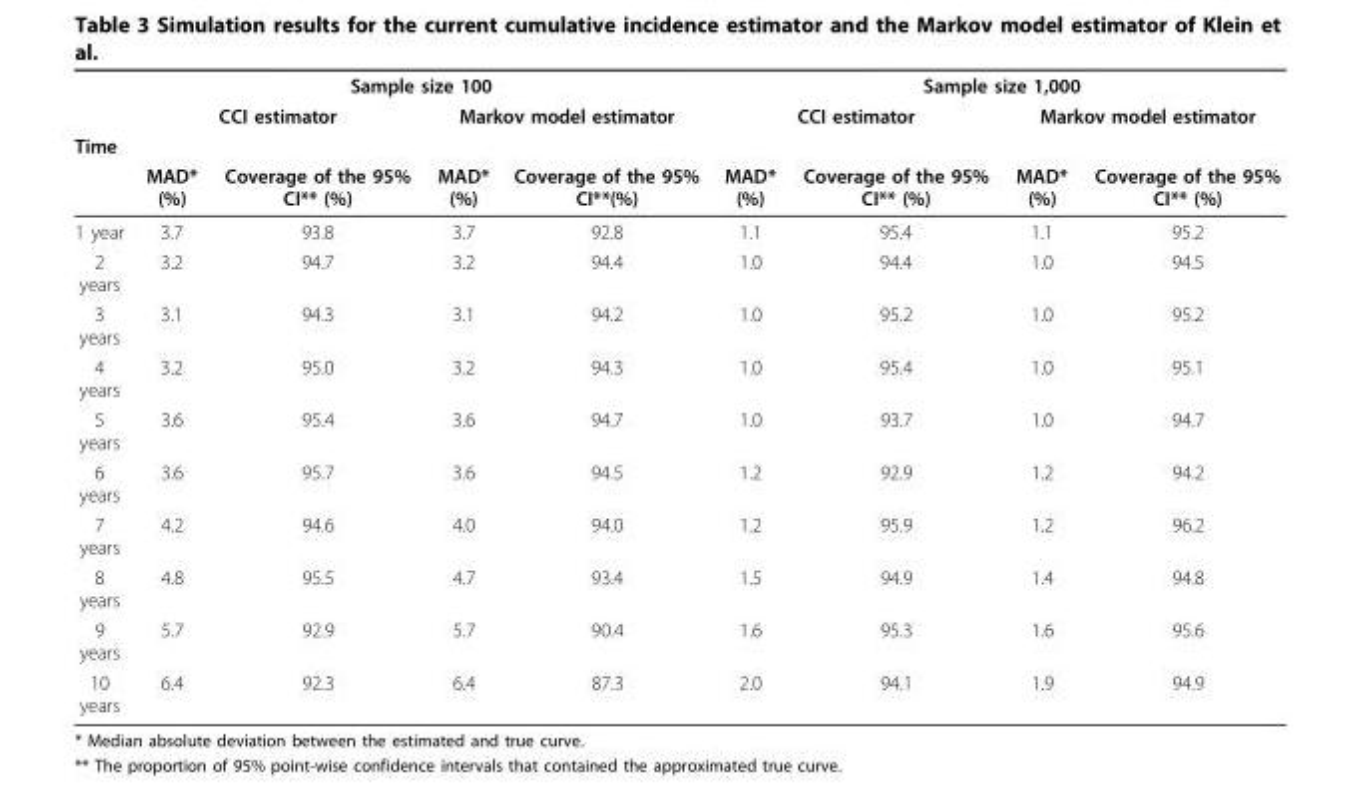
<table><thead><tr><td rowspan="4">Time</td><td colspan="4">Sample size 100</td><td colspan="4">Sample size 1,000</td></tr><tr><td colspan="2">CCI estimator</td><td colspan="2">Markov model estimator</td><td colspan="2">CCI estimator</td><td colspan="2">Markov model estimator</td></tr><tr><td rowspan="2">MAD* (%)</td><td rowspan="2">Coverage of the 95% CI** (%)</td><td rowspan="2">MAD* (%)</td><td rowspan="2">Coverage of the 95% CI**(%)</td><td rowspan="2">MAD* (%)</td><td rowspan="2">Coverage of the 95% CI** (%)</td><td rowspan="2">MAD* (%)</td><td rowspan="2">Coverage of the 95% CI** (%)</td></tr><tr></tr></thead><tbody><tr><td>1 year</td><td>3.7</td><td>93.8</td><td>3.7</td><td>92.8</td><td>1.1</td><td>95.4</td><td>1.1</td><td>95.2</td></tr><tr><td>2 years</td><td>3.2</td><td>94.7</td><td>3.2</td><td>94.4</td><td>1.0</td><td>94.4</td><td>1.0</td><td>94.5</td></tr><tr><td>3 years</td><td>3.1</td><td>94.3</td><td>3.1</td><td>94.2</td><td>1.0</td><td>95.2</td><td>1.0</td><td>95.2</td></tr><tr><td>4 years</td><td>3.2</td><td>95.0</td><td>3.2</td><td>94.3</td><td>1.0</td><td>95.4</td><td>1.0</td><td>95.1</td></tr><tr><td>5 years</td><td>3.6</td><td>95.4</td><td>3.6</td><td>94.7</td><td>1.0</td><td>93.7</td><td>1.0</td><td>94.7</td></tr><tr><td>6 years</td><td>3.6</td><td>95.7</td><td>3.6</td><td>94.5</td><td>1.2</td><td>92.9</td><td>1.2</td><td>94.2</td></tr><tr><td>7 years</td><td>4.2</td><td>94.6</td><td>4.0</td><td>94.0</td><td>1.2</td><td>95.9</td><td>1.2</td><td>96.2</td></tr><tr><td>8 years</td><td>4.8</td><td>95.5</td><td>4.7</td><td>93.4</td><td>1.5</td><td>94.9</td><td>1.4</td><td>94.8</td></tr><tr><td>9 years</td><td>5.7</td><td>92.9</td><td>5.7</td><td>90.4</td><td>1.6</td><td>95.3</td><td>1.6</td><td>95.6</td></tr><tr><td>10 years</td><td>6.4</td><td>92.3</td><td>6.4</td><td>87.3</td><td>2.0</td><td>94.1</td><td>1.9</td><td>94.9</td></tr></tbody></table>